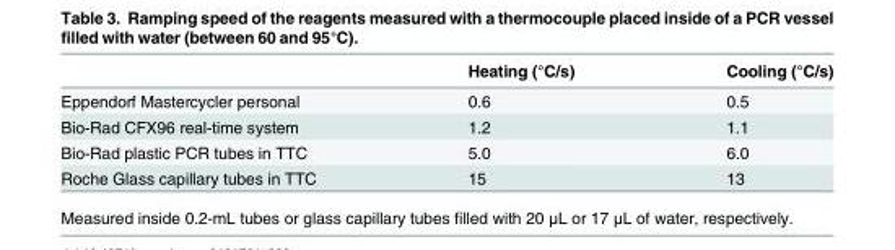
<table><thead><tr><td></td><td>Heating (°C/s)</td><td>Cooling (°C/s)</td></tr></thead><tbody><tr><td>Eppendorf Mastercycler personal</td><td>0.6</td><td>0.5</td></tr><tr><td>Bio-Rad CFX96 real-time system</td><td>1.2</td><td>1.1</td></tr><tr><td>Bio-Rad plastic PCR tubes in TTC</td><td>5.0</td><td>6.0</td></tr><tr><td>Roche Glass capillary tubes in TTC</td><td>15</td><td>13</td></tr></tbody></table>